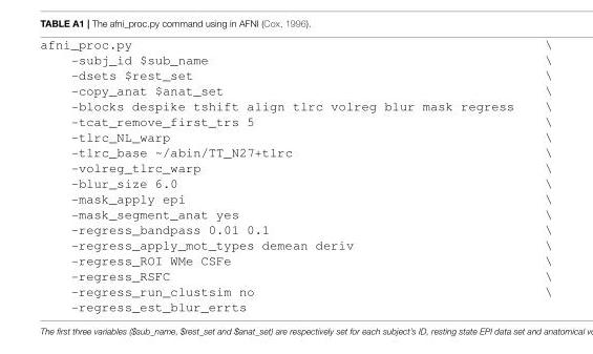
<table><tbody><tr><td>afni_proc.py</td><td>\</td></tr><tr><td>-subj_id $sub_name</td><td>\</td></tr><tr><td>-dsets $rest_set</td><td>\</td></tr><tr><td>-copy_anat $anat_set</td><td>\</td></tr><tr><td>-blocks despike tshift align tlrc volreg blur mask regress</td><td>\</td></tr><tr><td>-tcat_remove_first_trs 5</td><td>\</td></tr><tr><td>-tlrc_NL_warp</td><td>\</td></tr><tr><td>-tlrc_base ~/abin/TT_N27+tlrc</td><td>\</td></tr><tr><td>-volreg_tlrc_warp</td><td>\</td></tr><tr><td>-blur_size 6.0</td><td>\</td></tr><tr><td>-mask_apply epi</td><td>\</td></tr><tr><td>-mask_segment_anat yes</td><td>\</td></tr><tr><td>-regress_bandpass 0.01 0.1</td><td>\</td></tr><tr><td>-regress_apply_mot_types demean deriv</td><td>\</td></tr><tr><td>-regress_ROI WMe CSFe</td><td>\</td></tr><tr><td>-regress_RSFC</td><td>\</td></tr><tr><td>-regress_run_clustsim no</td><td>\</td></tr><tr><td>-regress_est_blur_errts</td><td></td></tr></tbody></table>